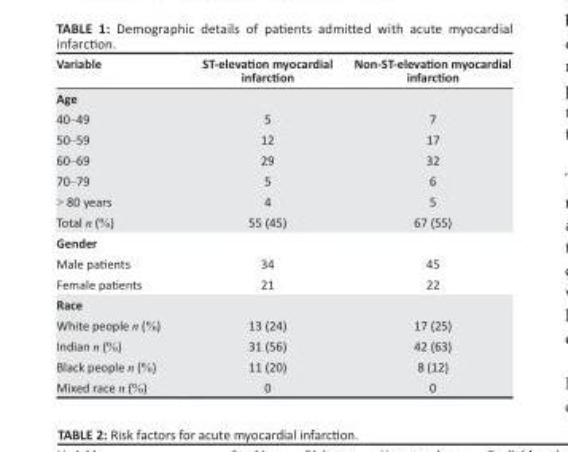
<table><thead><tr><td>Variable</td><td>ST-elevation myocardial infarction</td><td>Non-ST-elevation myocardial infarction</td></tr></thead><tbody><tr><td colspan="3">Age</td></tr><tr><td>40–49</td><td>5</td><td>7</td></tr><tr><td>50–59</td><td>12</td><td>17</td></tr><tr><td>60–69</td><td>29</td><td>32</td></tr><tr><td>70–79</td><td>5</td><td>6</td></tr><tr><td>&gt; 80 years</td><td>4</td><td>5</td></tr><tr><td>Total n (%)</td><td>55 (45)</td><td>67 (55)</td></tr><tr><td colspan="3">Gender</td></tr><tr><td>Male patients</td><td>34</td><td>45</td></tr><tr><td>Female patients</td><td>21</td><td>22</td></tr><tr><td colspan="3">Race</td></tr><tr><td>White people n (%)</td><td>13 (24)</td><td>17 (25)</td></tr><tr><td>Indian n (%)</td><td>31 (56)</td><td>42 (63)</td></tr><tr><td>Black people n (%)</td><td>11 (20)</td><td>8 (12)</td></tr><tr><td>Mixed race n (%)</td><td>0</td><td>0</td></tr></tbody></table>